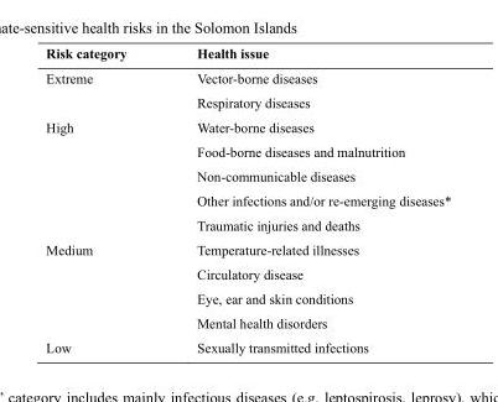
<table><thead><tr><td>Risk category</td><td>Health issue</td></tr></thead><tbody><tr><td rowspan="2">Extreme</td><td>Vector-borne diseases</td></tr><tr><td>Respiratory diseases</td></tr><tr><td rowspan="5">High</td><td>Water-borne diseases</td></tr><tr><td>Food-borne diseases and malnutrition</td></tr><tr><td>Non-communicable diseases</td></tr><tr><td>Other infections and/or re-emerging diseases*</td></tr><tr><td>Traumatic injuries and deaths</td></tr><tr><td rowspan="4">Medium</td><td>Temperature-related illnesses</td></tr><tr><td>Circulatory disease</td></tr><tr><td>Eye, ear and skin conditions</td></tr><tr><td>Mental health disorders</td></tr><tr><td>Low</td><td>Sexually transmitted infections</td></tr></tbody></table>